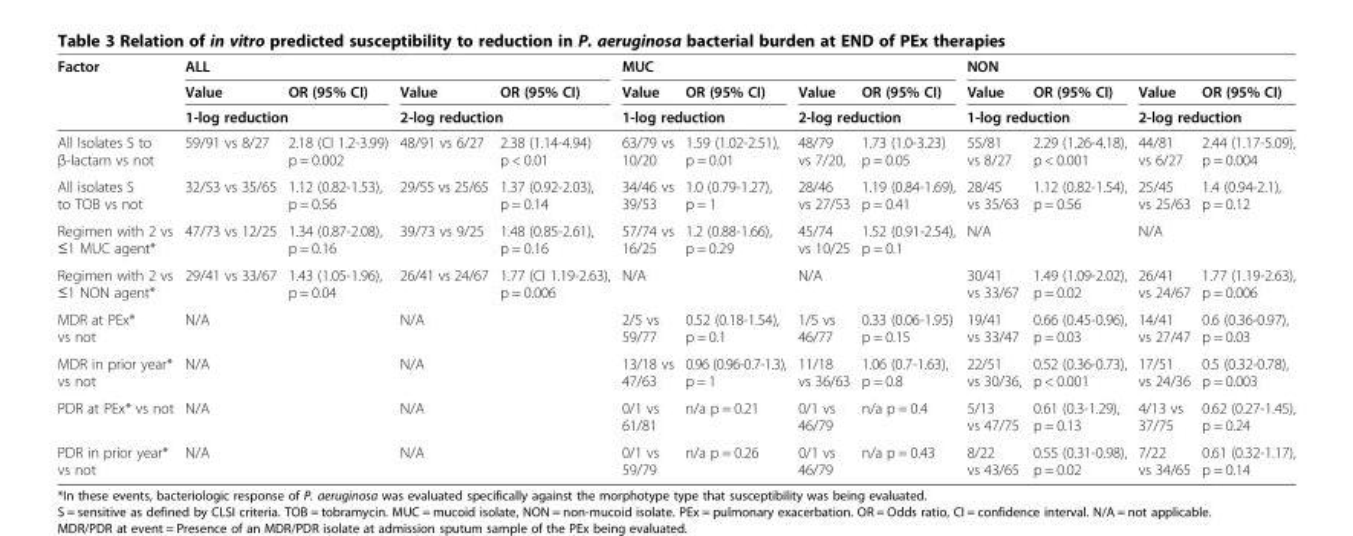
<table><thead><tr><td rowspan="3">Factor</td><td colspan="4">ALL</td><td colspan="4">MUC</td><td colspan="4">NON</td></tr><tr><td>Value</td><td>OR (95% CI)</td><td>Value</td><td>OR (95% CI)</td><td>Value</td><td>OR (95% CI)</td><td>Value</td><td>OR (95% CI)</td><td>Value</td><td>OR (95% CI)</td><td>Value</td><td>OR (95% CI)</td></tr><tr><td colspan="2">1-log reduction</td><td colspan="2">2-log reduction</td><td colspan="2">1-log reduction</td><td colspan="2">2-log reduction</td><td colspan="2">1-log reduction</td><td colspan="2">2-log reduction</td></tr></thead><tbody><tr><td>All Isolates S to β-lactam vs not</td><td>59/91 vs 8/27</td><td>2.18 (CI 1.2-3.99) p = 0.002</td><td>48/91 vs 6/27</td><td>2.38 (1.14-4.94) p &lt; 0.01</td><td>63/79 vs 10/20</td><td>1.59 (1.02-2.51), p = 0.01</td><td>48/79 vs 7/20,</td><td>1.73 (1.0-3.23) p = 0.05</td><td>55/81 vs 8/27</td><td>2.29 (1.26-4.18), p &lt; 0.001</td><td>44/81 vs 6/27</td><td>2.44 (1.17-5.09), p = 0.004</td></tr><tr><td>All isolates S to TOB vs not</td><td>32/53 vs 35/65</td><td>1.12 (0.82-1.53), p = 0.56</td><td>29/55 vs 25/65</td><td>1.37 (0.92-2.03), p = 0.14</td><td>34/46 vs 39/53</td><td>1.0 (0.79-1.27), p = 1</td><td>28/46 vs 27/53</td><td>1.19 (0.84-1.69), p = 0.41</td><td>28/45 vs 35/63</td><td>1.12 (0.82-1.54), p = 0.56</td><td>25/45 vs 25/63</td><td>1.4 (0.94-2.1), p = 0.12</td></tr><tr><td>Regimen with 2 vs ≤1 MUC agent*</td><td>47/73 vs 12/25</td><td>1.34 (0.87-2.08), p = 0.16</td><td>39/73 vs 9/25</td><td>1.48 (0.85-2.61), p = 0.16</td><td>57/74 vs 16/25</td><td>1.2 (0.88-1.66), p = 0.29</td><td>45/74 vs 10/25</td><td>1.52 (0.91-2.54), p = 0.1</td><td colspan="2">N/A</td><td colspan="2">N/A</td></tr><tr><td>Regimen with 2 vs ≤1 NON agent*</td><td>29/41 vs 33/67</td><td>1.43 (1.05-1.96), p = 0.04</td><td>26/41 vs 24/67</td><td>1.77 (CI 1.19-2.63), p = 0.006</td><td colspan="2">N/A</td><td colspan="2">N/A</td><td>30/41 vs 33/67</td><td>1.49 (1.09-2.02), p = 0.02</td><td>26/41 vs 24/67</td><td>1.77 (1.19-2.63), p = 0.006</td></tr><tr><td>MDR at PEx* vs not</td><td colspan="2">N/A</td><td colspan="2">N/A</td><td>2/5 vs 59/77</td><td>0.52 (0.18-1.54), p = 0.1</td><td>1/5 vs 46/77</td><td>0.33 (0.06-1.95) p = 0.15</td><td>19/41 vs 33/47</td><td>0.66 (0.45-0.96), p = 0.03</td><td>14/41 vs 27/47</td><td>0.6 (0.36-0.97), p = 0.03</td></tr><tr><td>MDR in prior year* vs not</td><td colspan="2">N/A</td><td colspan="2">N/A</td><td>13/18 vs 47/63</td><td>0.96 (0.96-0.7-1.3), p = 1</td><td>11/18 vs 36/63</td><td>1.06 (0.7-1.63), p = 0.8</td><td>22/51 vs 30/36,</td><td>0.52 (0.36-0.73), p &lt; 0.001</td><td>17/51 vs 24/36</td><td>0.5 (0.32-0.78), p = 0.003</td></tr><tr><td>PDR at PEx* vs not</td><td colspan="2">N/A</td><td colspan="2">N/A</td><td>0/1 vs 61/81</td><td>n/a p = 0.21</td><td>0/1 vs 46/79</td><td>n/a p = 0.4</td><td>5/13 vs 47/75</td><td>0.61 (0.3-1.29), p = 0.13</td><td>4/13 vs 37/75</td><td>0.62 (0.27-1.45), p = 0.24</td></tr><tr><td>PDR in prior year* vs not</td><td colspan="2">N/A</td><td colspan="2">N/A</td><td>0/1 vs 59/79</td><td>n/a p = 0.26</td><td>0/1 vs 46/79</td><td>n/a p = 0.43</td><td>8/22 vs 43/65</td><td>0.55 (0.31-0.98), p = 0.02</td><td>7/22 vs 34/65</td><td>0.61 (0.32-1.17), p = 0.14</td></tr></tbody></table>